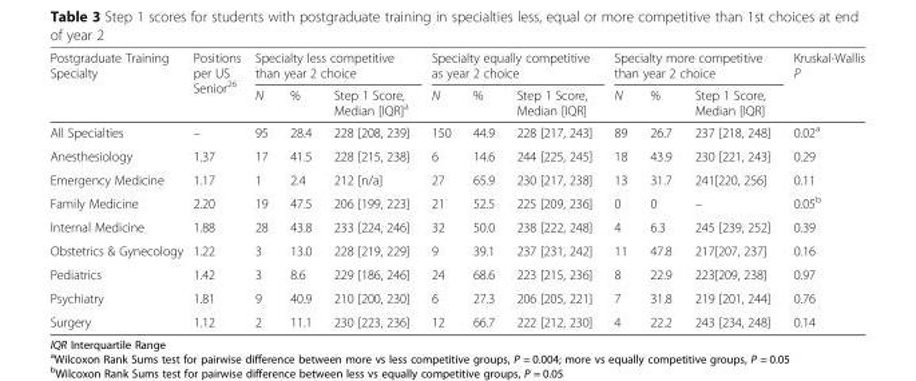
<table><thead><tr><td rowspan="2">Postgraduate Training Specialty</td><td rowspan="2">Positions per US Senior<sup>26</sup></td><td colspan="3">Specialty less competitive than year 2 choice</td><td colspan="3">Specialty equally competitive as year 2 choice</td><td colspan="3">Specialty more competitive than year 2 choice</td><td rowspan="2">Kruskal-Wallis P</td></tr><tr><td>N</td><td>%</td><td>Step 1 Score, Median [IQR]<sup>a</sup></td><td>N</td><td>%</td><td>Step 1 Score, Median [IQR]</td><td>N</td><td>%</td><td>Step 1 Score, Median [IQR]</td></tr></thead><tbody><tr><td>All Specialties</td><td>–</td><td>95</td><td>28.4</td><td>228 [208, 239]</td><td>150</td><td>44.9</td><td>228 [217, 243]</td><td>89</td><td>26.7</td><td>237 [218, 248]</td><td>0.02<sup>a</sup></td></tr><tr><td>Anesthesiology</td><td>1.37</td><td>17</td><td>41.5</td><td>228 [215, 238]</td><td>6</td><td>14.6</td><td>244 [225, 245]</td><td>18</td><td>43.9</td><td>230 [221, 243]</td><td>0.29</td></tr><tr><td>Emergency Medicine</td><td>1.17</td><td>1</td><td>2.4</td><td>212 [n/a]</td><td>27</td><td>65.9</td><td>230 [217, 238]</td><td>13</td><td>31.7</td><td>241[220, 256]</td><td>0.11</td></tr><tr><td>Family Medicine</td><td>2.20</td><td>19</td><td>47.5</td><td>206 [199, 223]</td><td>21</td><td>52.5</td><td>225 [209, 236]</td><td>0</td><td>0</td><td>–</td><td>0.05<sup>b</sup></td></tr><tr><td>Internal Medicine</td><td>1.88</td><td>28</td><td>43.8</td><td>233 [224, 246]</td><td>32</td><td>50.0</td><td>238 [222, 248]</td><td>4</td><td>6.3</td><td>245 [239, 252]</td><td>0.39</td></tr><tr><td>Obstetrics &amp; Gynecology</td><td>1.22</td><td>3</td><td>13.0</td><td>228 [219, 229]</td><td>9</td><td>39.1</td><td>237 [231, 242]</td><td>11</td><td>47.8</td><td>217[207, 237]</td><td>0.16</td></tr><tr><td>Pediatrics</td><td>1.42</td><td>3</td><td>8.6</td><td>229 [186, 246]</td><td>24</td><td>68.6</td><td>223 [215, 236]</td><td>8</td><td>22.9</td><td>223[209, 238]</td><td>0.97</td></tr><tr><td>Psychiatry</td><td>1.81</td><td>9</td><td>40.9</td><td>210 [200, 230]</td><td>6</td><td>27.3</td><td>206 [205, 221]</td><td>7</td><td>31.8</td><td>219 [201, 244]</td><td>0.76</td></tr><tr><td>Surgery</td><td>1.12</td><td>2</td><td>11.1</td><td>230 [223, 236]</td><td>12</td><td>66.7</td><td>222 [212, 230]</td><td>4</td><td>22.2</td><td>243 [234, 248]</td><td>0.14</td></tr></tbody></table>